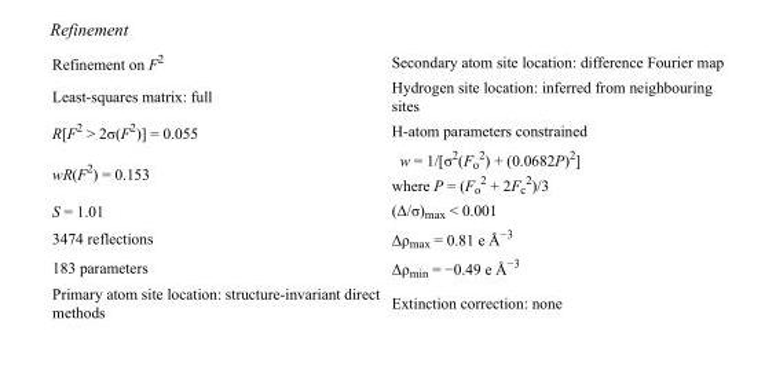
<table><tbody><tr><td>Refinement on F<sup>2</sup></td><td>Secondary atom site location: difference Fourier map</td></tr><tr><td>Least-squares matrix: full</td><td>Hydrogen site location: inferred from neighbouring sites</td></tr><tr><td>R[F<sup>2</sup> &gt; 2σ(F<sup>2</sup>)] = 0.055</td><td>H-atom parameters constrained</td></tr><tr><td>wR(F<sup>2</sup>) = 0.153</td><td>w = 1/[σ<sup>2</sup>(F<sub>o</sub> <sup>2</sup>) + (0.0682P)<sup>2</sup>] where P = (F<sub>o</sub> <sup>2</sup> + 2F<sub>c</sub> <sup>2</sup>)/3</td></tr><tr><td>S = 1.01</td><td>(Δ/σ)<sub>max</sub> &lt; 0.001</td></tr><tr><td>3474 reflections</td><td>Δρ<sub>max</sub> = 0.81 e Å<sup>−3</sup></td></tr><tr><td>183 parameters</td><td>Δρ<sub>min</sub> = −0.49 e Å<sup>−3</sup></td></tr><tr><td>Primary atom site location: structure-invariant direct methods</td><td>Extinction correction: none</td></tr></tbody></table>